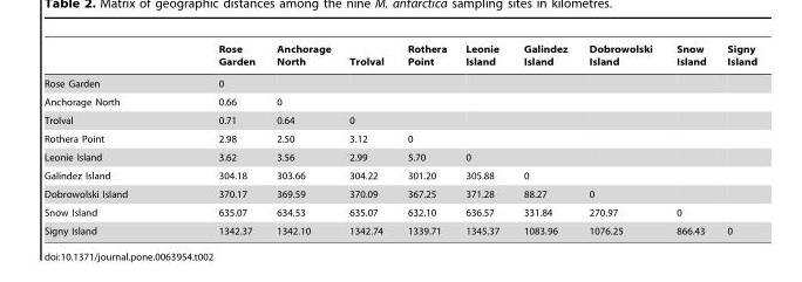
<table><thead><tr><td></td><td>Rose Garden</td><td>Anchorage North</td><td>Trolval</td><td>Rothera Point</td><td>Leonie Island</td><td>Galindez Island</td><td>Dobrowolski Island</td><td>Snow Island</td><td>Signy Island</td></tr></thead><tbody><tr><td>Rose Garden</td><td>0</td><td></td><td></td><td></td><td></td><td></td><td></td><td></td><td></td></tr><tr><td>Anchorage North</td><td>0.66</td><td>0</td><td></td><td></td><td></td><td></td><td></td><td></td><td></td></tr><tr><td>Trolval</td><td>0.71</td><td>0.64</td><td>0</td><td></td><td></td><td></td><td></td><td></td><td></td></tr><tr><td>Rothera Point</td><td>2.98</td><td>2.50</td><td>3.12</td><td>0</td><td></td><td></td><td></td><td></td><td></td></tr><tr><td>Leonie Island</td><td>3.62</td><td>3.56</td><td>2.99</td><td>5.70</td><td>0</td><td></td><td></td><td></td><td></td></tr><tr><td>Galindez Island</td><td>304.18</td><td>303.66</td><td>304.22</td><td>301.20</td><td>305.88</td><td>0</td><td></td><td></td><td></td></tr><tr><td>Dobrowolski Island</td><td>370.17</td><td>369.59</td><td>370.09</td><td>367.25</td><td>371.28</td><td>88.27</td><td>0</td><td></td><td></td></tr><tr><td>Snow Island</td><td>635.07</td><td>634.53</td><td>635.07</td><td>632.10</td><td>636.57</td><td>331.84</td><td>270.97</td><td>0</td><td></td></tr><tr><td>Signy Island</td><td>1342.37</td><td>1342.10</td><td>1342.74</td><td>1339.71</td><td>1345.37</td><td>1083.96</td><td>1076.25</td><td>866.43</td><td>0</td></tr></tbody></table>